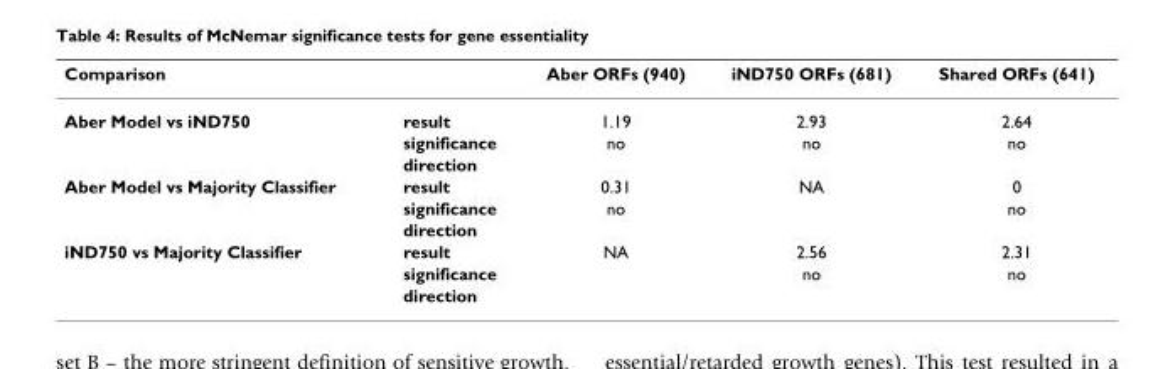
<table><thead><tr><td>Comparison</td><td></td><td>Aber ORFs (940)</td><td>iND750 ORFs (681)</td><td>Shared ORFs (641)</td></tr></thead><tbody><tr><td rowspan="3">Aber Model vs iND750</td><td>result</td><td>1.19</td><td>2.93</td><td>2.64</td></tr><tr><td>significance</td><td>no</td><td>no</td><td>no</td></tr><tr><td>direction</td><td></td><td></td><td></td></tr><tr><td rowspan="3">Aber Model vs Majority Classifier</td><td>result</td><td>0.31</td><td>NA</td><td>0</td></tr><tr><td>significance</td><td>no</td><td></td><td>no</td></tr><tr><td>direction</td><td></td><td></td><td></td></tr><tr><td rowspan="3">iND750 vs Majority Classifier</td><td>result</td><td>NA</td><td>2.56</td><td>2.31</td></tr><tr><td>significance</td><td></td><td>no</td><td>no</td></tr><tr><td>direction</td><td></td><td></td><td></td></tr></tbody></table>